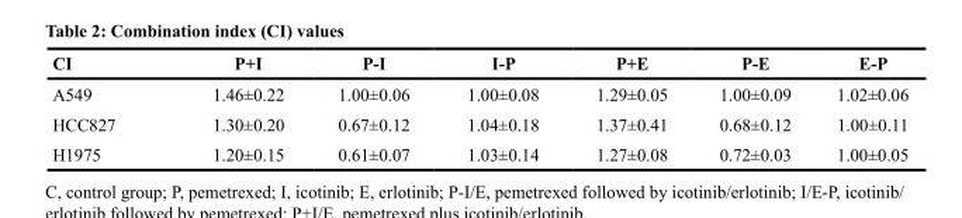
<table><thead><tr><td>CI</td><td>P+I</td><td>P-I</td><td>I-P</td><td>P+E</td><td>P-E</td><td>E-P</td></tr></thead><tbody><tr><td>A549</td><td>1.46±0.22</td><td>1.00±0.06</td><td>1.00±0.08</td><td>1.29±0.05</td><td>1.00±0.09</td><td>1.02±0.06</td></tr><tr><td>HCC827</td><td>1.30±0.20</td><td>0.67±0.12</td><td>1.04±0.18</td><td>1.37±0.41</td><td>0.68±0.12</td><td>1.00±0.11</td></tr><tr><td>H1975</td><td>1.20±0.15</td><td>0.61±0.07</td><td>1.03±0.14</td><td>1.27±0.08</td><td>0.72±0.03</td><td>1.00±0.05</td></tr></tbody></table>